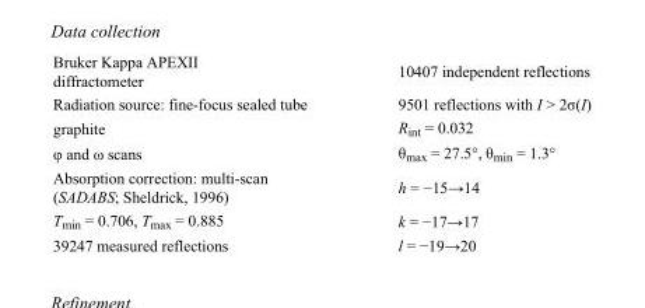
<table><tbody><tr><td>Bruker Kappa APEXII diffractometer</td><td>10407 independent reflections</td></tr><tr><td>Radiation source: fine-focus sealed tube</td><td>9501 reflections with I &gt; 2σ(I)</td></tr><tr><td>graphite</td><td>R<sub>int</sub> = 0.032</td></tr><tr><td>φ and ω scans</td><td>θ<sub>max</sub> = 27.5°, θ<sub>min</sub> = 1.3°</td></tr><tr><td>Absorption correction: multi-scan (SADABS; Sheldrick, 1996)</td><td>h = −15→14</td></tr><tr><td>T<sub>min</sub> = 0.706, T<sub>max</sub> = 0.885</td><td>k = −17→17</td></tr><tr><td>39247 measured reflections</td><td>l = −19→20</td></tr></tbody></table>